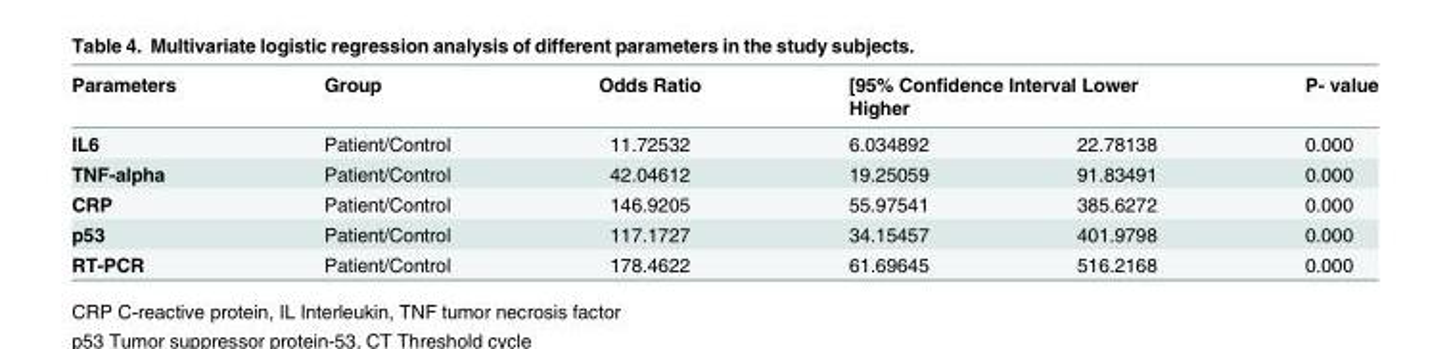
<table><thead><tr><td rowspan="2">Parameters IL6</td><td rowspan="2">Group Patient/Control</td><td rowspan="2">Odds Ratio 11.72532</td><td colspan="2">[95% Confidence Interval Lower Higher</td><td rowspan="2">P- value 0.000</td></tr><tr><td>6.034892</td><td>22.78138</td></tr></thead><tbody><tr><td>TNF-alpha</td><td>Patient/Control</td><td>42.04612</td><td>19.25059</td><td>91.83491</td><td>0.000</td></tr><tr><td>CRP</td><td>Patient/Control</td><td>146.9205</td><td>55.97541</td><td>385.6272</td><td>0.000</td></tr><tr><td>p53</td><td>Patient/Control</td><td>117.1727</td><td>34.15457</td><td>401.9798</td><td>0.000</td></tr><tr><td>RT-PCR</td><td>Patient/Control</td><td>178.4622</td><td>61.69645</td><td>516.2168</td><td>0.000</td></tr></tbody></table>